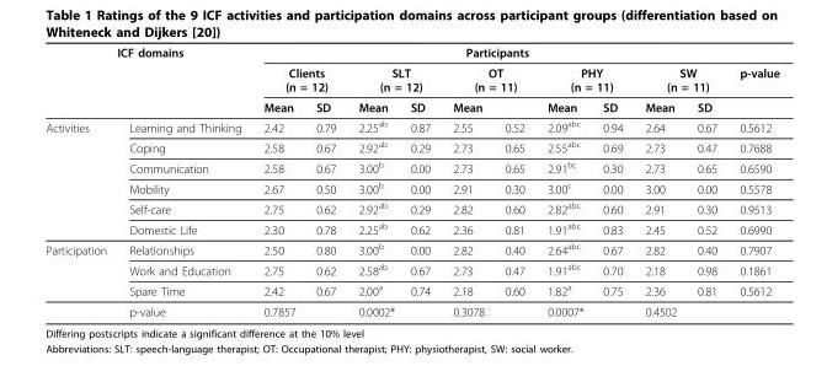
<table><thead><tr><td colspan="2">ICF domains</td><td colspan="10">Participants</td><td rowspan="3">p-value</td></tr><tr><td rowspan="2"></td><td rowspan="2"></td><td colspan="2">Clients (n = 12)</td><td colspan="2">SLT (n = 12)</td><td colspan="2">OT (n = 11)</td><td colspan="2">PHY (n = 11)</td><td colspan="2">SW (n = 11)</td></tr><tr><td>Mean</td><td>SD</td><td>Mean</td><td>SD</td><td>Mean</td><td></td><td>Mean</td><td>SD</td><td>Mean</td><td>SD</td></tr></thead><tbody><tr><td rowspan="6">Activities</td><td>Learning and Thinking</td><td>2.42</td><td>0.79</td><td>2.25<sup>ab</sup></td><td>0.87</td><td>2.55</td><td>0.52</td><td>2.09<sup>abc</sup></td><td>0.94</td><td>2.64</td><td>0.67</td><td>0.5612</td></tr><tr><td>Coping</td><td>2.58</td><td>0.67</td><td>2.92<sup>ab</sup></td><td>0.29</td><td>2.73</td><td>0.65</td><td>2.55<sup>abc</sup></td><td>0.69</td><td>2.73</td><td>0.47</td><td>0.7688</td></tr><tr><td>Communication</td><td>2.58</td><td>0.67</td><td>3.00<sup>b</sup></td><td>0.00</td><td>2.73</td><td>0.65</td><td>2.91<sup>bc</sup></td><td>0.30</td><td>2.73</td><td>0.65</td><td>0.6590</td></tr><tr><td>Mobility</td><td>2.67</td><td>0.50</td><td>3.00<sup>b</sup></td><td>0.00</td><td>2.91</td><td>0.30</td><td>3.00<sup>c</sup></td><td>0.00</td><td>3.00</td><td>0.00</td><td>0.5578</td></tr><tr><td>Self-care</td><td>2.75</td><td>0.62</td><td>2.92<sup>ab</sup></td><td>0.29</td><td>2.82</td><td>0.60</td><td>2.82<sup>abc</sup></td><td>0.60</td><td>2.91</td><td>0.30</td><td>0.9513</td></tr><tr><td>Domestic Life</td><td>2.30</td><td>0.78</td><td>2.25<sup>ab</sup></td><td>0.62</td><td>2.36</td><td>0.81</td><td>1.91<sup>abc</sup></td><td>0.83</td><td>2.45</td><td>0.52</td><td>0.6990</td></tr><tr><td rowspan="4">Participation</td><td>Relationships</td><td>2.50</td><td>0.80</td><td>3.00<sup>b</sup></td><td>0.00</td><td>2.82</td><td>0.40</td><td>2.64<sup>abc</sup></td><td>0.67</td><td>2.82</td><td>0.40</td><td>0.7907</td></tr><tr><td>Work and Education</td><td>2.75</td><td>0.62</td><td>2.58<sup>ab</sup></td><td>0.67</td><td>2.73</td><td>0.47</td><td>1.91<sup>abc</sup></td><td>0.70</td><td>2.18</td><td>0.98</td><td>0.1861</td></tr><tr><td>Spare Time</td><td>2.42</td><td>0.67</td><td>2.00<sup>a</sup></td><td>0.74</td><td>2.18</td><td>0.60</td><td>1.82<sup>a</sup></td><td>0.75</td><td>2.36</td><td>0.81</td><td>0.5612</td></tr><tr><td>p-value</td><td colspan="2">0.7857</td><td colspan="2">0.0002*</td><td colspan="2">0.3078</td><td colspan="2">0.0007*</td><td colspan="2">0.4502</td><td></td></tr></tbody></table>